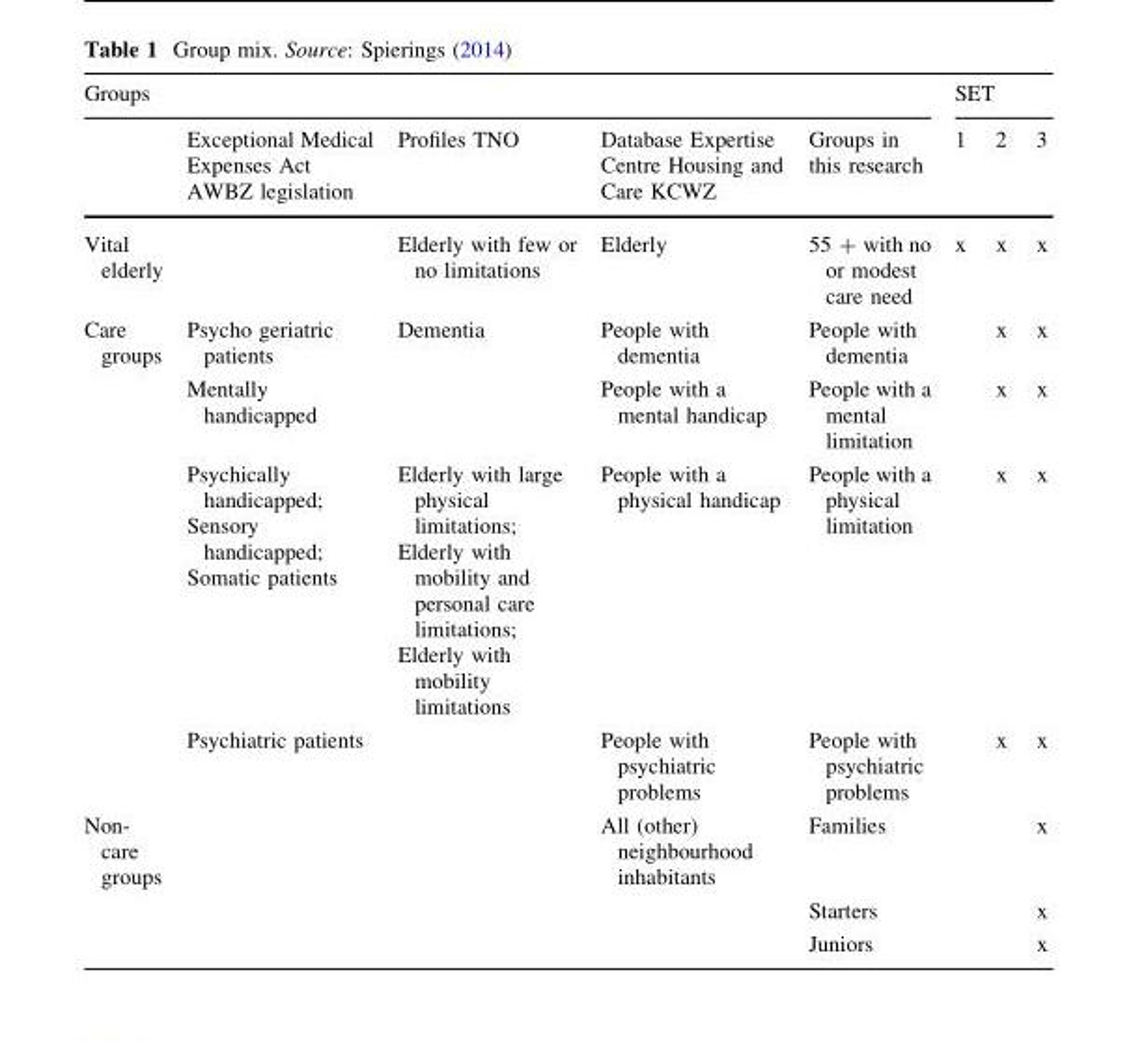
<table><thead><tr><td colspan="5">Groups</td><td colspan="3">SET</td></tr><tr><td></td><td>Exceptional Medical Expenses Act AWBZ legislation</td><td>Profiles TNO</td><td>Database Expertise Centre Housing and Care KCWZ</td><td>Groups in this research</td><td>1</td><td>2</td><td>3</td></tr></thead><tbody><tr><td>Vital elderly</td><td></td><td>Elderly with few or no limitations</td><td>Elderly</td><td>55 + with no or modest care need</td><td>x</td><td>x</td><td>x</td></tr><tr><td rowspan="4">Care groups</td><td>Psycho geriatric patients</td><td>Dementia</td><td>People with dementia</td><td>People with dementia</td><td></td><td>x</td><td>x</td></tr><tr><td>Mentally handicapped</td><td></td><td>People with a mental handicap</td><td>People with a mental limitation</td><td></td><td>x</td><td>x</td></tr><tr><td>Psychically handicapped; Sensory handicapped; Somatic patients</td><td>Elderly with large physical limitations; Elderly with mobility and personal care limitations; Elderly with mobility limitations</td><td>People with a physical handicap</td><td>People with a physical limitation</td><td></td><td>x</td><td>x</td></tr><tr><td>Psychiatric patients</td><td></td><td>People with psychiatric problems</td><td>People with psychiatric problems</td><td></td><td>x</td><td>x</td></tr><tr><td rowspan="3">Non- care groups</td><td></td><td></td><td>All (other) neighbourhood inhabitants</td><td>Families</td><td></td><td></td><td>x</td></tr><tr><td></td><td></td><td></td><td>Starters</td><td></td><td></td><td>x</td></tr><tr><td></td><td></td><td></td><td>Juniors</td><td></td><td></td><td>x</td></tr></tbody></table>